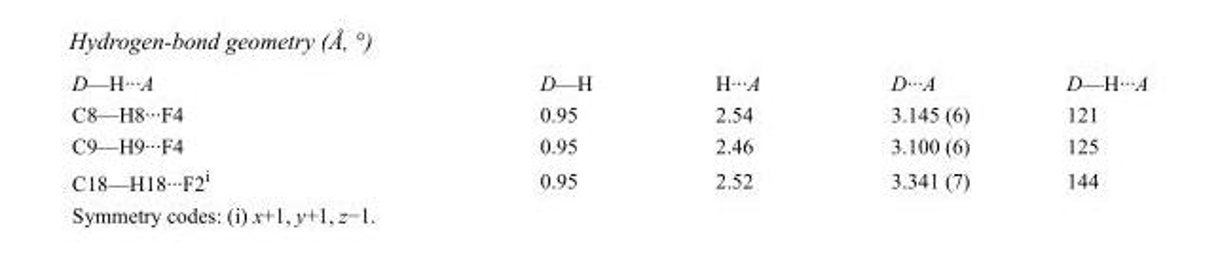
<table><tbody><tr><td>D—H···A</td><td>D—H</td><td>H···A</td><td>D···A</td><td>D—H···A</td></tr><tr><td>C8—H8···F4</td><td>0.95</td><td>2.54</td><td>3.145 (6)</td><td>121</td></tr><tr><td>C9—H9···F4</td><td>0.95</td><td>2.46</td><td>3.100 (6)</td><td>125</td></tr><tr><td>C18—H18···F2<sup>i</sup></td><td>0.95</td><td>2.52</td><td>3.341 (7)</td><td>144</td></tr></tbody></table>